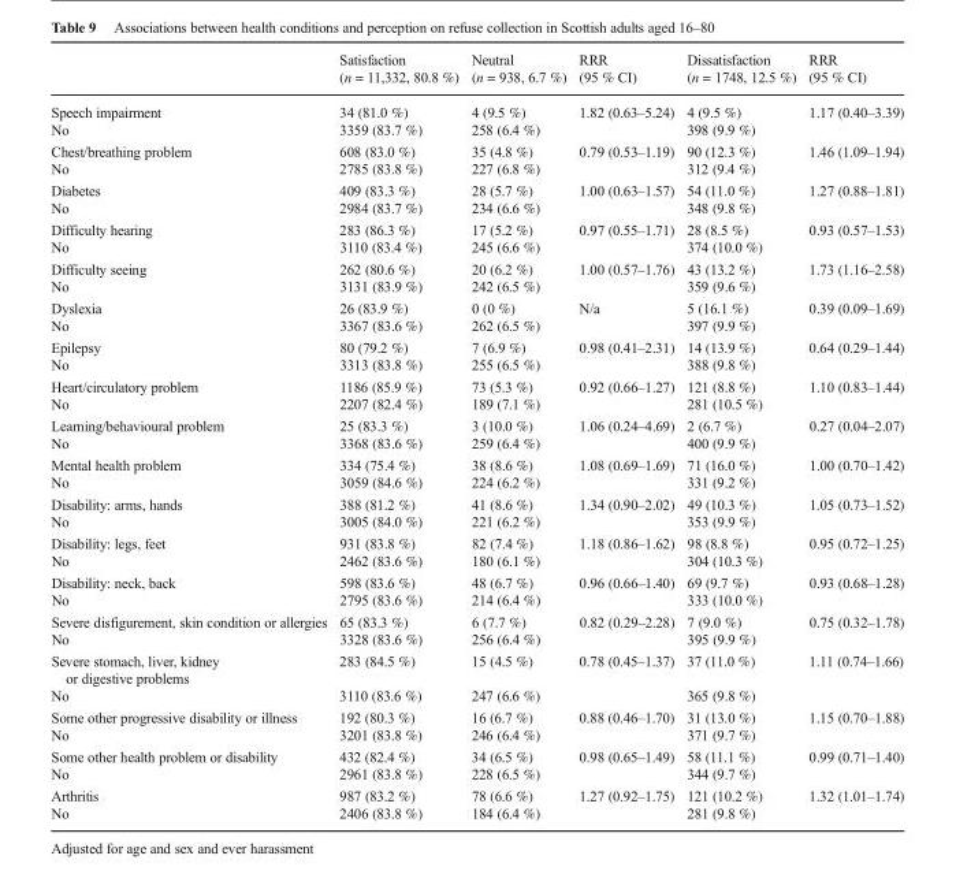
<table><thead><tr><td></td><td>Satisfaction (n = 11,332, 80.8 %)</td><td>Neutral (n = 938, 6.7 %)</td><td>RRR (95 % CI)</td><td>Dissatisfaction (n = 1748, 12.5 %)</td><td>RRR (95 % CI)</td></tr></thead><tbody><tr><td>Speech impairment</td><td>34 (81.0 %)</td><td>4 (9.5 %)</td><td rowspan="2">1.82 (0.63–5.24)</td><td>4 (9.5 %)</td><td rowspan="2">1.17 (0.40–3.39)</td></tr><tr><td>No</td><td>3359 (83.7 %)</td><td>258 (6.4 %)</td><td>398 (9.9 %)</td></tr><tr><td>Chest/breathing problem</td><td>608 (83.0 %)</td><td>35 (4.8 %)</td><td rowspan="2">0.79 (0.53–1.19)</td><td>90 (12.3 %)</td><td rowspan="2">1.46 (1.09–1.94)</td></tr><tr><td>No</td><td>2785 (83.8 %)</td><td>227 (6.8 %)</td><td>312 (9.4 %)</td></tr><tr><td>Diabetes</td><td>409 (83.3 %)</td><td>28 (5.7 %)</td><td rowspan="2">1.00 (0.63–1.57)</td><td>54 (11.0 %)</td><td rowspan="2">1.27 (0.88–1.81)</td></tr><tr><td>No</td><td>2984 (83.7 %)</td><td>234 (6.6 %)</td><td>348 (9.8 %)</td></tr><tr><td>Difficulty hearing</td><td>283 (86.3 %)</td><td>17 (5.2 %)</td><td rowspan="2">0.97 (0.55–1.71)</td><td>28 (8.5 %)</td><td rowspan="2">0.93 (0.57–1.53)</td></tr><tr><td>No</td><td>3110 (83.4 %)</td><td>245 (6.6 %)</td><td>374 (10.0 %)</td></tr><tr><td>Difficulty seeing</td><td>262 (80.6 %)</td><td>20 (6.2 %)</td><td rowspan="2">1.00 (0.57–1.76)</td><td>43 (13.2 %)</td><td rowspan="2">1.73 (1.16–2.58)</td></tr><tr><td>No</td><td>3131 (83.9 %)</td><td>242 (6.5 %)</td><td>359 (9.6 %)</td></tr><tr><td>Dyslexia</td><td>26 (83.9 %)</td><td>0 (0 %)</td><td rowspan="2">N/a</td><td>5 (16.1 %)</td><td rowspan="2">0.39 (0.09–1.69)</td></tr><tr><td>No</td><td>3367 (83.6 %)</td><td>262 (6.5 %)</td><td>397 (9.9 %)</td></tr><tr><td>Epilepsy</td><td>80 (79.2 %)</td><td>7 (6.9 %)</td><td rowspan="2">0.98 (0.41–2.31)</td><td>14 (13.9 %)</td><td rowspan="2">0.64 (0.29–1.44)</td></tr><tr><td>No</td><td>3313 (83.8 %)</td><td>255 (6.5 %)</td><td>388 (9.8 %)</td></tr><tr><td>Heart/circulatory problem</td><td>1186 (85.9 %)</td><td>73 (5.3 %)</td><td rowspan="2">0.92 (0.66–1.27)</td><td>121 (8.8 %)</td><td rowspan="2">1.10 (0.83–1.44)</td></tr><tr><td>No</td><td>2207 (82.4 %)</td><td>189 (7.1 %)</td><td>281 (10.5 %)</td></tr><tr><td>Learning/behavioural problem</td><td>25 (83.3 %)</td><td>3 (10.0 %)</td><td rowspan="2">1.06 (0.24–4.69)</td><td>2 (6.7 %)</td><td rowspan="2">0.27 (0.04–2.07)</td></tr><tr><td>No</td><td>3368 (83.6 %)</td><td>259 (6.4 %)</td><td>400 (9.9 %)</td></tr><tr><td>Mental health problem</td><td>334 (75.4 %)</td><td>38 (8.6 %)</td><td rowspan="2">1.08 (0.69–1.69)</td><td>71 (16.0 %)</td><td rowspan="2">1.00 (0.70–1.42)</td></tr><tr><td>No</td><td>3059 (84.6 %)</td><td>224 (6.2 %)</td><td>331 (9.2 %)</td></tr><tr><td>Disability: arms, hands</td><td>388 (81.2 %)</td><td>41 (8.6 %)</td><td rowspan="2">1.34 (0.90–2.02)</td><td>49 (10.3 %)</td><td rowspan="2">1.05 (0.73–1.52)</td></tr><tr><td>No</td><td>3005 (84.0 %)</td><td>221 (6.2 %)</td><td>353 (9.9 %)</td></tr><tr><td>Disability: legs, feet</td><td>931 (83.8 %)</td><td>82 (7.4 %)</td><td rowspan="2">1.18 (0.86–1.62)</td><td>98 (8.8 %)</td><td rowspan="2">0.95 (0.72–1.25)</td></tr><tr><td>No</td><td>2462 (83.6 %)</td><td>180 (6.1 %)</td><td>304 (10.3 %)</td></tr><tr><td>Disability: neck, back</td><td>598 (83.6 %)</td><td>48 (6.7 %)</td><td rowspan="2">0.96 (0.66–1.40)</td><td>69 (9.7 %)</td><td rowspan="2">0.93 (0.68–1.28)</td></tr><tr><td>No</td><td>2795 (83.6 %)</td><td>214 (6.4 %)</td><td>333 (10.0 %)</td></tr><tr><td>Severe disfigurement, skin condition or allergies</td><td>65 (83.3 %)</td><td>6 (7.7 %)</td><td rowspan="2">0.82 (0.29–2.28)</td><td>7 (9.0 %)</td><td rowspan="2">0.75 (0.32–1.78)</td></tr><tr><td>No</td><td>3328 (83.6 %)</td><td>256 (6.4 %)</td><td>395 (9.9 %)</td></tr><tr><td>Severe stomach, liver, kidney or digestive problems</td><td>283 (84.5 %)</td><td>15 (4.5 %)</td><td rowspan="2">0.78 (0.45–1.37)</td><td>37 (11.0 %)</td><td rowspan="2">1.11 (0.74–1.66)</td></tr><tr><td>No</td><td>3110 (83.6 %)</td><td>247 (6.6 %)</td><td>365 (9.8 %)</td></tr><tr><td>Some other progressive disability or illness</td><td>192 (80.3 %)</td><td>16 (6.7 %)</td><td rowspan="2">0.88 (0.46–1.70)</td><td>31 (13.0 %)</td><td rowspan="2">1.15 (0.70–1.88)</td></tr><tr><td>No</td><td>3201 (83.8 %)</td><td>246 (6.4 %)</td><td>371 (9.7 %)</td></tr><tr><td>Some other health problem or disability</td><td>432 (82.4 %)</td><td>34 (6.5 %)</td><td rowspan="2">0.98 (0.65–1.49)</td><td>58 (11.1 %)</td><td rowspan="2">0.99 (0.71–1.40)</td></tr><tr><td>No</td><td>2961 (83.8 %)</td><td>228 (6.5 %)</td><td>344 (9.7 %)</td></tr><tr><td>Arthritis</td><td>987 (83.2 %)</td><td>78 (6.6 %)</td><td rowspan="2">1.27 (0.92–1.75)</td><td>121 (10.2 %)</td><td rowspan="2">1.32 (1.01–1.74)</td></tr><tr><td>No</td><td>2406 (83.8 %)</td><td>184 (6.4 %)</td><td>281 (9.8 %)</td></tr></tbody></table>